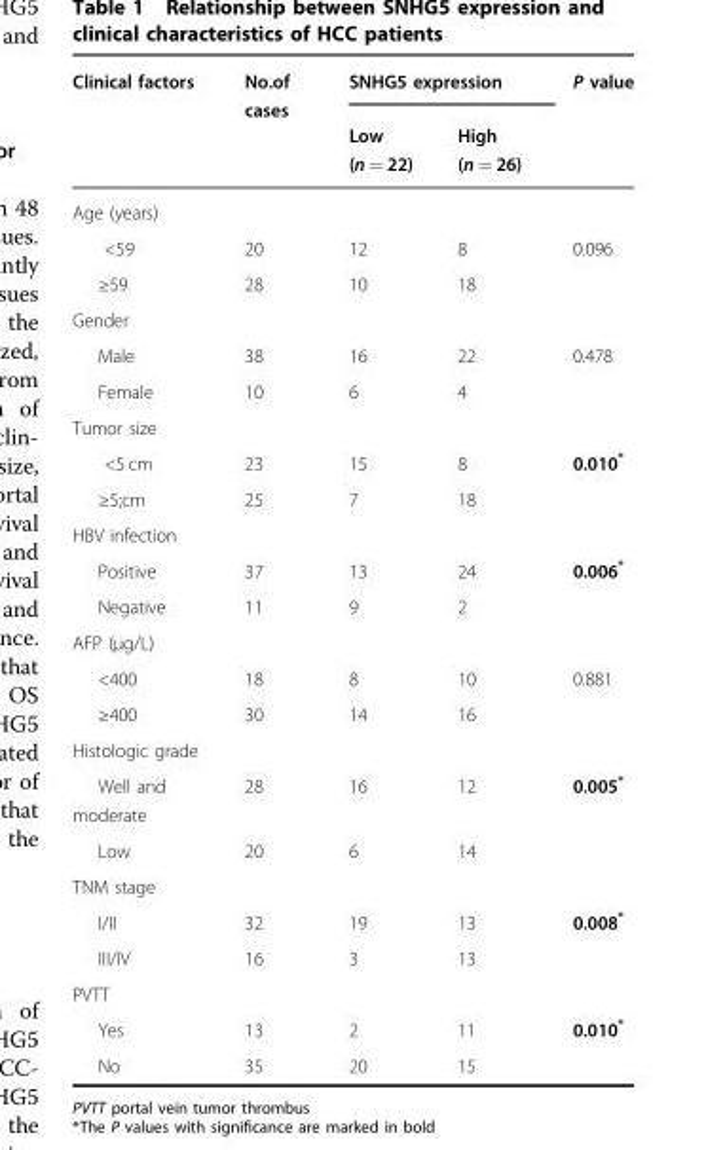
<table><thead><tr><td rowspan="2">Clinical factors</td><td rowspan="2">No.of cases</td><td colspan="2">SNHG5 expression</td><td rowspan="2">P value</td></tr><tr><td>Low (n = 22)</td><td>High (n = 26)</td></tr></thead><tbody><tr><td colspan="5">Age (years)</td></tr><tr><td>&lt;59</td><td>20</td><td>12</td><td>8</td><td rowspan="2">0.096</td></tr><tr><td>≥59</td><td>28</td><td>10</td><td>18</td></tr><tr><td colspan="5">Gender</td></tr><tr><td>Male</td><td>38</td><td>16</td><td>22</td><td rowspan="2">0.478</td></tr><tr><td>Female</td><td>10</td><td>6</td><td>4</td></tr><tr><td colspan="5">Tumor size</td></tr><tr><td>&lt;5 cm</td><td>23</td><td>15</td><td>8</td><td rowspan="2">0.010*</td></tr><tr><td>≥5;cm</td><td>25</td><td>7</td><td>18</td></tr><tr><td colspan="5">HBV infection</td></tr><tr><td>Positive</td><td>37</td><td>13</td><td>24</td><td rowspan="2">0.006*</td></tr><tr><td>Negative</td><td>11</td><td>9</td><td>2</td></tr><tr><td colspan="5">AFP (μg/L)</td></tr><tr><td>&lt;400</td><td>18</td><td>8</td><td>10</td><td rowspan="2">0.881</td></tr><tr><td>≥400</td><td>30</td><td>14</td><td>16</td></tr><tr><td colspan="5">Histologic grade</td></tr><tr><td>Well and moderate</td><td>28</td><td>16</td><td>12</td><td rowspan="2">0.005*</td></tr><tr><td>Low</td><td>20</td><td>6</td><td>14</td></tr><tr><td colspan="5">TNM stage</td></tr><tr><td>I/II</td><td>32</td><td>19</td><td>13</td><td rowspan="2">0.008*</td></tr><tr><td>III/IV</td><td>16</td><td>3</td><td>13</td></tr><tr><td colspan="5">PVTT</td></tr><tr><td>Yes</td><td>13</td><td>2</td><td>11</td><td>0.010*</td></tr><tr><td>No</td><td>35</td><td>20</td><td>15</td><td></td></tr></tbody></table>